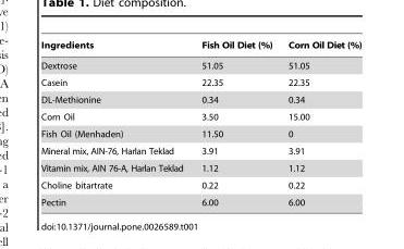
<table><thead><tr><td>Ingredients</td><td>Fish Oil Diet (%)</td><td>Corn Oil Diet (%)</td></tr></thead><tbody><tr><td>Dextrose</td><td>51.05</td><td>51.05</td></tr><tr><td>Casein</td><td>22.35</td><td>22.35</td></tr><tr><td>DL-Methionine</td><td>0.34</td><td>0.34</td></tr><tr><td>Corn Oil</td><td>3.50</td><td>15.00</td></tr><tr><td>Fish Oil (Menhaden)</td><td>11.50</td><td>0</td></tr><tr><td>Mineral mix, AIN-76, Harlan Teklad</td><td>3.91</td><td>3.91</td></tr><tr><td>Vitamin mix, AIN 76-A, Harlan Teklad</td><td>1.12</td><td>1.12</td></tr><tr><td>Choline bitartrate</td><td>0.22</td><td>0.22</td></tr><tr><td>Pectin</td><td>6.00</td><td>6.00</td></tr></tbody></table>